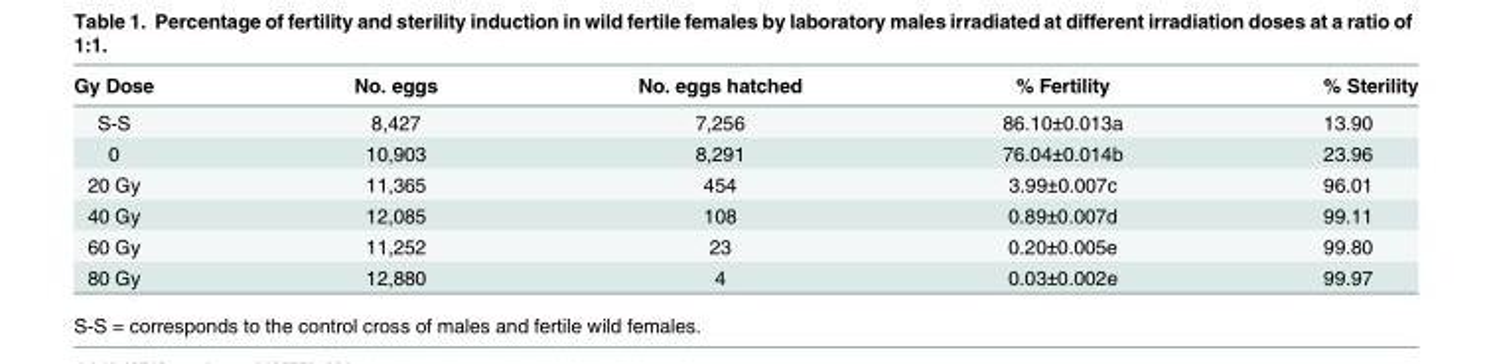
<table><thead><tr><td>Gy Dose</td><td>No. eggs</td><td>No. eggs hatched</td><td>% Fertility</td><td>% Sterility</td></tr></thead><tbody><tr><td>S-S</td><td>8,427</td><td>7,256</td><td>86.10±0.013a</td><td>13.90</td></tr><tr><td>0</td><td>10,903</td><td>8,291</td><td>76.04±0.014b</td><td>23.96</td></tr><tr><td>20 Gy</td><td>11,365</td><td>454</td><td>3.99±0.007c</td><td>96.01</td></tr><tr><td>40 Gy</td><td>12,085</td><td>108</td><td>0.89±0.007d</td><td>99.11</td></tr><tr><td>60 Gy</td><td>11,252</td><td>23</td><td>0.20±0.005e</td><td>99.80</td></tr><tr><td>80 Gy</td><td>12,880</td><td>4</td><td>0.03±0.002e</td><td>99.97</td></tr></tbody></table>